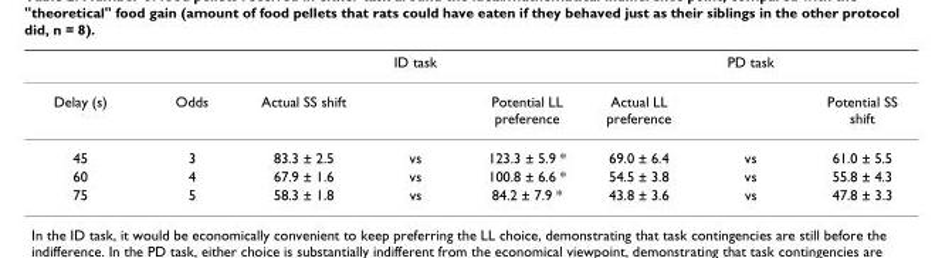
<table><thead><tr><td rowspan="2">Delay (s)</td><td rowspan="2">Odds</td><td colspan="3">ID task</td><td colspan="3">PD task</td></tr><tr><td>Actual SS shift</td><td></td><td>Potential LL preference</td><td>Actual LL preference</td><td></td><td>Potential SS shift</td></tr></thead><tbody><tr><td>45</td><td>3</td><td>83.3 ± 2.5</td><td>vs</td><td>123.3 ± 5.9 *</td><td>69.0 ± 6.4</td><td>vs</td><td>61.0 ± 5.5</td></tr><tr><td>60</td><td>4</td><td>67.9 ± 1.6</td><td>vs</td><td>100.8 ± 6.6 *</td><td>54.5 ± 3.8</td><td>vs</td><td>55.8 ± 4.3</td></tr><tr><td>75</td><td>5</td><td>58.3 ± 1.8</td><td>vs</td><td>84.2 ± 7.9 *</td><td>43.8 ± 3.6</td><td>vs</td><td>47.8 ± 3.3</td></tr></tbody></table>